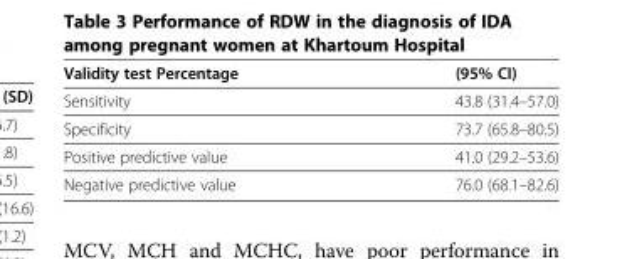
<table><thead><tr><td>Validity test Percentage</td><td>(95% CI)</td></tr></thead><tbody><tr><td>Sensitivity</td><td>43.8 (31.4–57.0)</td></tr><tr><td>Specificity</td><td>73.7 (65.8–80.5)</td></tr><tr><td>Positive predictive value</td><td>41.0 (29.2–53.6)</td></tr><tr><td>Negative predictive value</td><td>76.0 (68.1–82.6)</td></tr></tbody></table>